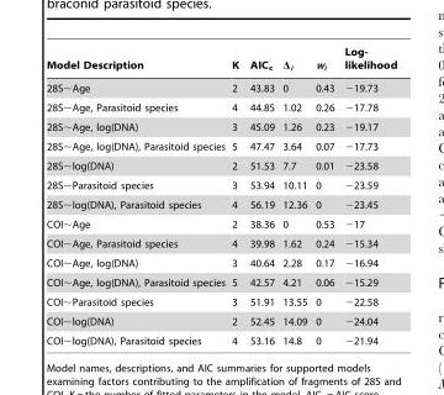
<table><thead><tr><td>Model Description</td><td>K</td><td>AIC<sub>c</sub></td><td>Δ<sub>i</sub></td><td>w<sub>i</sub></td><td>Log- likelihood</td></tr></thead><tbody><tr><td>28S∼Age</td><td>2</td><td>43.83</td><td>0</td><td>0.43</td><td>−19.73</td></tr><tr><td>28S∼Age, Parasitoid species</td><td>4</td><td>44.85</td><td>1.02</td><td>0.26</td><td>−17.78</td></tr><tr><td>28S∼Age, log(DNA)</td><td>3</td><td>45.09</td><td>1.26</td><td>0.23</td><td>−19.17</td></tr><tr><td>28S∼Age, log(DNA), Parasitoid species</td><td>5</td><td>47.47</td><td>3.64</td><td>0.07</td><td>−17.73</td></tr><tr><td>28S∼log(DNA)</td><td>2</td><td>51.53</td><td>7.7</td><td>0.01</td><td>−23.58</td></tr><tr><td>28S∼Parasitoid species</td><td>3</td><td>53.94</td><td>10.11</td><td>0</td><td>−23.59</td></tr><tr><td>28S∼log(DNA), Parasitoid species</td><td>4</td><td>56.19</td><td>12.36</td><td>0</td><td>−23.45</td></tr><tr><td>COI∼Age</td><td>2</td><td>38.36</td><td>0</td><td>0.53</td><td>−17</td></tr><tr><td>COI∼Age, Parasitoid species</td><td>4</td><td>39.98</td><td>1.62</td><td>0.24</td><td>−15.34</td></tr><tr><td>COI∼Age, log(DNA)</td><td>3</td><td>40.64</td><td>2.28</td><td>0.17</td><td>−16.94</td></tr><tr><td>COI∼Age, log(DNA), Parasitoid species</td><td>5</td><td>42.57</td><td>4.21</td><td>0.06</td><td>−15.29</td></tr><tr><td>COI∼Parasitoid species</td><td>3</td><td>51.91</td><td>13.55</td><td>0</td><td>−22.58</td></tr><tr><td>COI∼log(DNA)</td><td>2</td><td>52.45</td><td>14.09</td><td>0</td><td>−24.04</td></tr><tr><td>COI∼log(DNA), Parasitoid species</td><td>4</td><td>53.16</td><td>14.8</td><td>0</td><td>−21.94</td></tr></tbody></table>